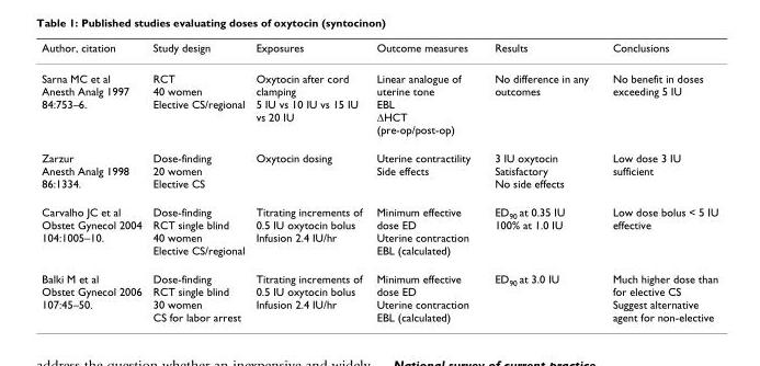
<table><thead><tr><td>Author, citation</td><td>Study design</td><td>Exposures</td><td>Outcome measures</td><td>Results</td><td>Conclusions</td></tr></thead><tbody><tr><td>Sarna MC et al Anesth Analg 1997 84:753–6.</td><td>RCT 40 women Elective CS/regional</td><td>Oxytocin after cord clamping 5 IU vs 10 IU vs 15 IU vs 20 IU</td><td>Linear analogue of uterine tone EBL ΔHCT (pre-op/post-op)</td><td>No difference in any outcomes</td><td>No benefit in doses exceeding 5 IU</td></tr><tr><td>Zarzur Anesth Analg 1998 86:1334.</td><td>Dose-finding 20 women Elective CS</td><td>Oxytocin dosing</td><td>Uterine contractility Side effects</td><td>3 IU oxytocin Satisfactory No side effects</td><td>Low dose 3 IU sufficient</td></tr><tr><td>Carvalho JC et al Obstet Gynecol 2004 104:1005–10.</td><td>Dose-finding RCT single blind 40 women Elective CS/regional</td><td>Titrating increments of 0.5 IU oxytocin bolus Infusion 2.4 IU/hr</td><td>Minimum effective dose ED Uterine contraction EBL (calculated)</td><td>ED<sub>90</sub> at 0.35 IU 100% at 1.0 IU</td><td>Low dose bolus &lt; 5 IU effective</td></tr><tr><td>Balki M et al Obstet Gynecol 2006 107:45–50.</td><td>Dose-finding RCT single blind 30 women CS for labor arrest</td><td>Titrating increments of 0.5 IU oxytocin bolus Infusion 2.4 IU/hr</td><td>Minimum effective dose ED Uterine contraction EBL (calculated)</td><td>ED<sub>90</sub> at 3.0 IU</td><td>Much higher dose than for elective CS Suggest alternative agent for non-elective</td></tr></tbody></table>